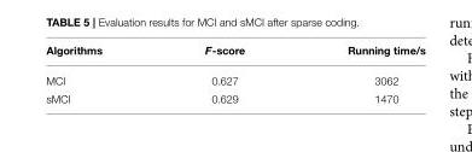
<table><thead><tr><td>Algorithms</td><td>F-score</td><td>Running time/s</td></tr></thead><tbody><tr><td>MCI</td><td>0.627</td><td>3062</td></tr><tr><td>sMCI</td><td>0.629</td><td>1470</td></tr></tbody></table>